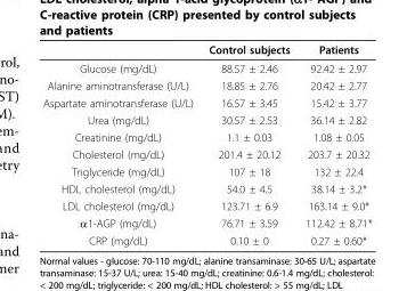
<table><thead><tr><td></td><td>Control subjects</td><td>Patients</td></tr></thead><tbody><tr><td>Glucose (mg/dL)</td><td>88.57 ± 2.46</td><td>92.42 ± 2.97</td></tr><tr><td>Alanine aminotransferase (U/L)</td><td>18.85 ± 2.76</td><td>20.42 ± 2.77</td></tr><tr><td>Aspartate aminotransferase (U/L)</td><td>16.57 ± 3.45</td><td>15.42 ± 3.77</td></tr><tr><td>Urea (mg/dL)</td><td>30.57 ± 2.53</td><td>36.14 ± 2.82</td></tr><tr><td>Creatinine (mg/dL)</td><td>1.1 ± 0.03</td><td>1.08 ± 0.05</td></tr><tr><td>Cholesterol (mg/dL)</td><td>201.4 ± 20.12</td><td>203.7 ± 20.32</td></tr><tr><td>Triglyceride (mg/dL)</td><td>107 ± 18</td><td>132 ± 22.4</td></tr><tr><td>HDL cholesterol (mg/dL)</td><td>54.0 ± 4.5</td><td>38.14 ± 3.2*</td></tr><tr><td>LDL cholesterol (mg/dL)</td><td>123.71 ± 6.9</td><td>163.14 ± 9.0*</td></tr><tr><td>α1-AGP (mg/dL)</td><td>76.71 ± 3.59</td><td>112.42 ± 8.71*</td></tr><tr><td>CRP (mg/dL)</td><td>0.10 ± 0</td><td>0.27 ± 0.60*</td></tr></tbody></table>